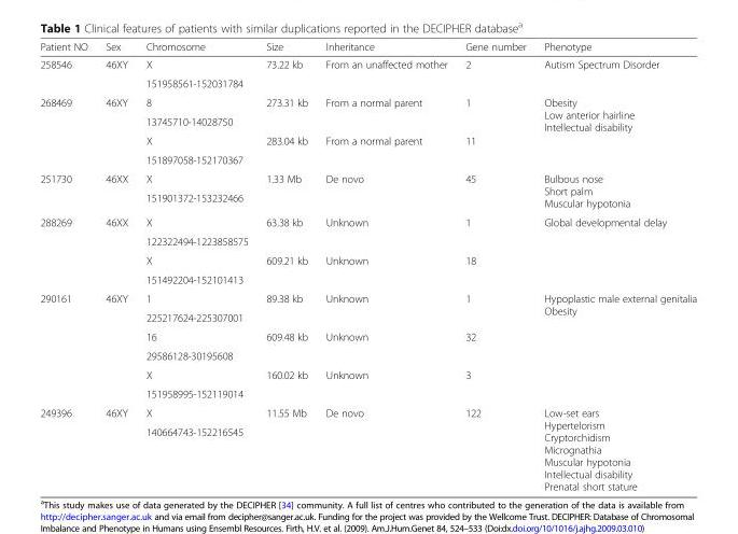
<table><thead><tr><td>Patient NO</td><td>Sex</td><td>Chromosome</td><td>Size</td><td>Inheritance</td><td>Gene number</td><td>Phenotype</td></tr></thead><tbody><tr><td rowspan="2">258546</td><td rowspan="2">46XY</td><td>X</td><td rowspan="2">73.22 kb</td><td rowspan="2">From an unaffected mother</td><td rowspan="2">2</td><td rowspan="2">Autism Spectrum Disorder</td></tr><tr><td>151958561-152031784</td></tr><tr><td rowspan="4">268469</td><td rowspan="4">46XY</td><td>8</td><td rowspan="2">273.31 kb</td><td rowspan="2">From a normal parent</td><td rowspan="2">1</td><td rowspan="4">Obesity Low anterior hairline Intellectual disability</td></tr><tr><td>13745710-14028750</td></tr><tr><td>X</td><td rowspan="2">283.04 kb</td><td rowspan="2">From a normal parent</td><td rowspan="2">11</td></tr><tr><td>151897058-152170367</td></tr><tr><td rowspan="2">251730</td><td rowspan="2">46XX</td><td>X</td><td rowspan="2">1.33 Mb</td><td rowspan="2">De novo</td><td rowspan="2">45</td><td rowspan="2">Bulbous nose Short palm Muscular hypotonia</td></tr><tr><td>151901372-153232466</td></tr><tr><td rowspan="4">288269</td><td rowspan="4">46XX</td><td>X</td><td rowspan="2">63.38 kb</td><td rowspan="2">Unknown</td><td rowspan="2">1</td><td rowspan="4">Global developmental delay</td></tr><tr><td>122322494-1223858575</td></tr><tr><td>X</td><td rowspan="2">609.21 kb</td><td rowspan="2">Unknown</td><td rowspan="2">18</td></tr><tr><td>151492204-152101413</td></tr><tr><td rowspan="6">290161</td><td rowspan="6">46XY</td><td>1</td><td rowspan="2">89.38 kb</td><td rowspan="2">Unknown</td><td rowspan="2">1</td><td rowspan="6">Hypoplastic male external genitalia Obesity</td></tr><tr><td>225217624-225307001</td></tr><tr><td>16</td><td rowspan="2">609.48 kb</td><td rowspan="2">Unknown</td><td rowspan="2">32</td></tr><tr><td>29586128-30195608</td></tr><tr><td>X</td><td rowspan="2">160.02 kb</td><td rowspan="2">Unknown</td><td rowspan="2">3</td></tr><tr><td>151958995-152119014</td></tr><tr><td rowspan="2">249396</td><td rowspan="2">46XY</td><td>X</td><td rowspan="2">11.55 Mb</td><td rowspan="2">De novo</td><td rowspan="2">122</td><td rowspan="2">Low-set ears Hypertelorism Cryptorchidism Micrognathia Muscular hypotonia Intellectual disability Prenatal short stature</td></tr><tr><td>140664743-152216545</td></tr></tbody></table>